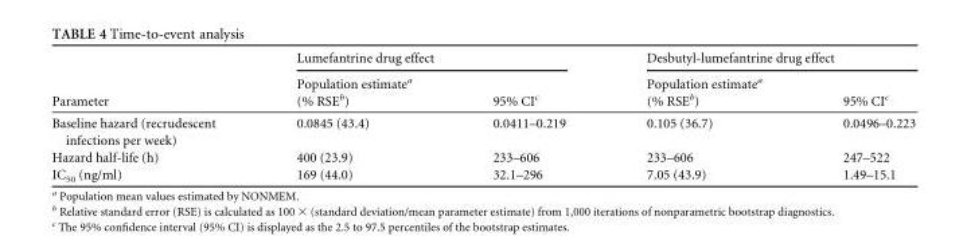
<table><thead><tr><td rowspan="2">Parameter</td><td colspan="2">Lumefantrine drug effect</td><td colspan="2">Desbutyl-lumefantrine drug effect</td></tr><tr><td>Population estimate<sup>a</sup> (% RSE<sup>b</sup>)</td><td>95% CI<sup>c</sup></td><td>Population estimate<sup>a</sup> (% RSE<sup>b</sup>)</td><td>95% CI<sup>c</sup></td></tr></thead><tbody><tr><td>Baseline hazard (recrudescent infections per week)</td><td>0.0845 (43.4)</td><td>0.0411–0.219</td><td>0.105 (36.7)</td><td>0.0496–0.223</td></tr><tr><td>Hazard half-life (h)</td><td>400 (23.9)</td><td>233–606</td><td>233–606</td><td>247–522</td></tr><tr><td>IC<sub>50</sub> (ng/ml)</td><td>169 (44.0)</td><td>32.1–296</td><td>7.05 (43.9)</td><td>1.49–15.1</td></tr></tbody></table>